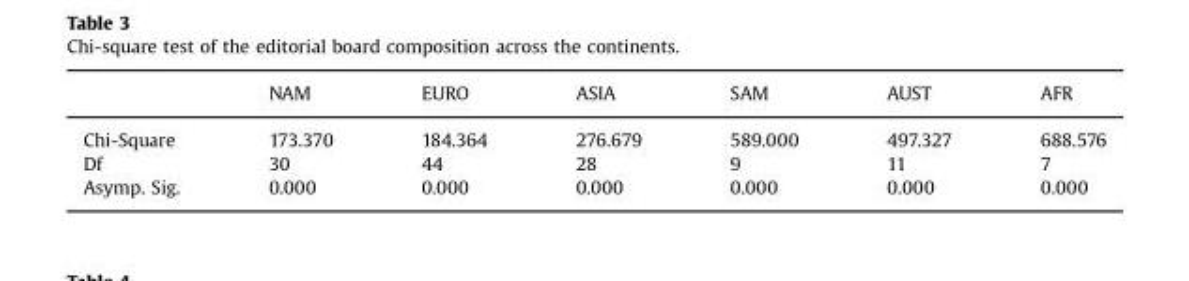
<table><thead><tr><td></td><td>NAM</td><td>EURO</td><td>ASIA</td><td>SAM</td><td>AUST</td><td>AFR</td></tr></thead><tbody><tr><td>Chi-Square</td><td>173.370</td><td>184.364</td><td>276.679</td><td>589.000</td><td>497.327</td><td>688.576</td></tr><tr><td>Df</td><td>30</td><td>44</td><td>28</td><td>9</td><td>11</td><td>7</td></tr><tr><td>Asymp. Sig.</td><td>0.000</td><td>0.000</td><td>0.000</td><td>0.000</td><td>0.000</td><td>0.000</td></tr></tbody></table>